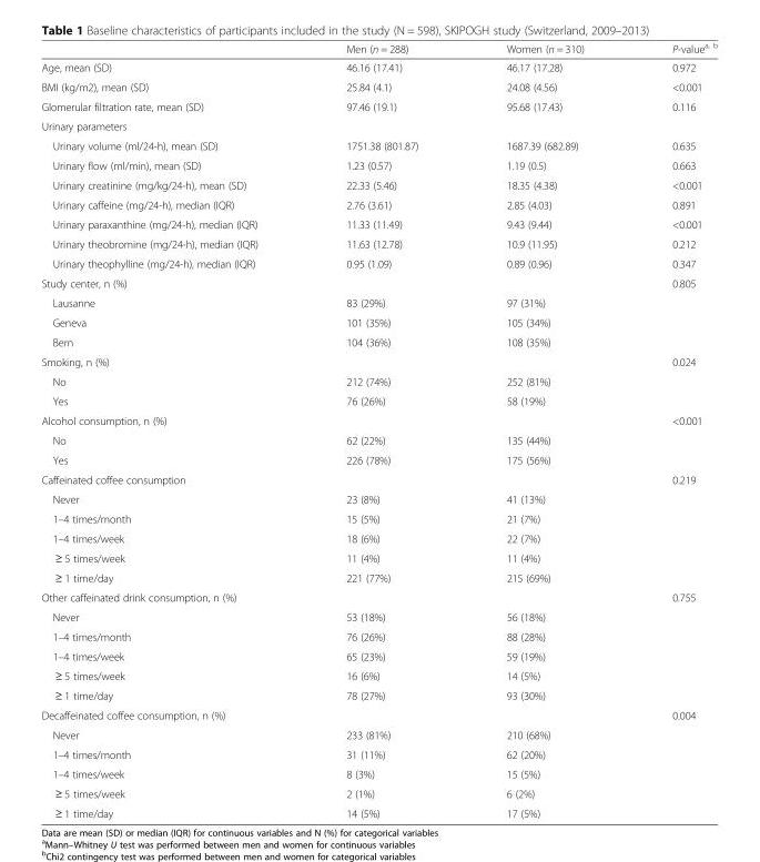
<table><thead><tr><td></td><td>Men (n = 288)</td><td>Women (n = 310)</td><td>P-value<sup>a, b</sup></td></tr></thead><tbody><tr><td>Age, mean (SD)</td><td>46.16 (17.41)</td><td>46.17 (17.28)</td><td>0.972</td></tr><tr><td>BMI (kg/m2), mean (SD)</td><td>25.84 (4.1)</td><td>24.08 (4.56)</td><td>&lt;0.001</td></tr><tr><td>Glomerular filtration rate, mean (SD)</td><td>97.46 (19.1)</td><td>95.68 (17.43)</td><td>0.116</td></tr><tr><td colspan="4">Urinary parameters</td></tr><tr><td>Urinary volume (ml/24-h), mean (SD)</td><td>1751.38 (801.87)</td><td>1687.39 (682.89)</td><td>0.635</td></tr><tr><td>Urinary flow (ml/min), mean (SD)</td><td>1.23 (0.57)</td><td>1.19 (0.5)</td><td>0.663</td></tr><tr><td>Urinary creatinine (mg/kg/24-h), mean (SD)</td><td>22.33 (5.46)</td><td>18.35 (4.38)</td><td>&lt;0.001</td></tr><tr><td>Urinary caffeine (mg/24-h), median (IQR)</td><td>2.76 (3.61)</td><td>2.85 (4.03)</td><td>0.891</td></tr><tr><td>Urinary paraxanthine (mg/24-h), median (IQR)</td><td>11.33 (11.49)</td><td>9.43 (9.44)</td><td>&lt;0.001</td></tr><tr><td>Urinary theobromine (mg/24-h), median (IQR)</td><td>11.63 (12.78)</td><td>10.9 (11.95)</td><td>0.212</td></tr><tr><td>Urinary theophylline (mg/24-h), median (IQR)</td><td>0.95 (1.09)</td><td>0.89 (0.96)</td><td>0.347</td></tr><tr><td>Study center, n (%)</td><td></td><td></td><td>0.805</td></tr><tr><td>Lausanne</td><td>83 (29%)</td><td>97 (31%)</td><td></td></tr><tr><td>Geneva</td><td>101 (35%)</td><td>105 (34%)</td><td></td></tr><tr><td>Bern</td><td>104 (36%)</td><td>108 (35%)</td><td></td></tr><tr><td>Smoking, n (%)</td><td></td><td></td><td>0.024</td></tr><tr><td>No</td><td>212 (74%)</td><td>252 (81%)</td><td></td></tr><tr><td>Yes</td><td>76 (26%)</td><td>58 (19%)</td><td></td></tr><tr><td>Alcohol consumption, n (%)</td><td></td><td></td><td>&lt;0.001</td></tr><tr><td>No</td><td>62 (22%)</td><td>135 (44%)</td><td></td></tr><tr><td>Yes</td><td>226 (78%)</td><td>175 (56%)</td><td></td></tr><tr><td>Caffeinated coffee consumption</td><td></td><td></td><td>0.219</td></tr><tr><td>Never</td><td>23 (8%)</td><td>41 (13%)</td><td></td></tr><tr><td>1–4 times/month</td><td>15 (5%)</td><td>21 (7%)</td><td></td></tr><tr><td>1–4 times/week</td><td>18 (6%)</td><td>22 (7%)</td><td></td></tr><tr><td>≥ 5 times/week</td><td>11 (4%)</td><td>11 (4%)</td><td></td></tr><tr><td>≥ 1 time/day</td><td>221 (77%)</td><td>215 (69%)</td><td></td></tr><tr><td>Other caffeinated drink consumption, n (%)</td><td></td><td></td><td>0.755</td></tr><tr><td>Never</td><td>53 (18%)</td><td>56 (18%)</td><td></td></tr><tr><td>1–4 times/month</td><td>76 (26%)</td><td>88 (28%)</td><td></td></tr><tr><td>1–4 times/week</td><td>65 (23%)</td><td>59 (19%)</td><td></td></tr><tr><td>≥ 5 times/week</td><td>16 (6%)</td><td>14 (5%)</td><td></td></tr><tr><td>≥ 1 time/day</td><td>78 (27%)</td><td>93 (30%)</td><td></td></tr><tr><td>Decaffeinated coffee consumption, n (%)</td><td></td><td></td><td>0.004</td></tr><tr><td>Never</td><td>233 (81%)</td><td>210 (68%)</td><td></td></tr><tr><td>1–4 times/month</td><td>31 (11%)</td><td>62 (20%)</td><td></td></tr><tr><td>1–4 times/week</td><td>8 (3%)</td><td>15 (5%)</td><td></td></tr><tr><td>≥ 5 times/week</td><td>2 (1%)</td><td>6 (2%)</td><td></td></tr><tr><td>≥ 1 time/day</td><td>14 (5%)</td><td>17 (5%)</td><td></td></tr></tbody></table>